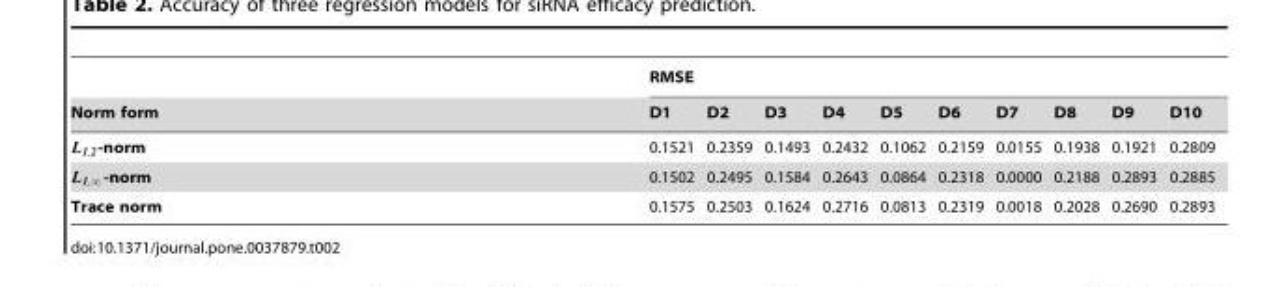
<table><thead><tr><td rowspan="2">Norm form</td><td colspan="10">RMSE</td></tr><tr><td>D1</td><td>D2</td><td>D3</td><td>D4</td><td>D5</td><td>D6</td><td>D7</td><td>D8</td><td>D9</td><td>D10</td></tr></thead><tbody><tr><td>L1,2-norm</td><td>0.1521</td><td>0.2359</td><td>0.1493</td><td>0.2432</td><td>0.1062</td><td>0.2159</td><td>0.0155</td><td>0.1938</td><td>0.1921</td><td>0.2809</td></tr><tr><td>L1,?-norm</td><td>0.1502</td><td>0.2495</td><td>0.1584</td><td>0.2643</td><td>0.0864</td><td>0.2318</td><td>0.0000</td><td>0.2188</td><td>0.2893</td><td>0.2885</td></tr><tr><td>Trace norm</td><td>0.1575</td><td>0.2503</td><td>0.1624</td><td>0.2716</td><td>0.0813</td><td>0.2319</td><td>0.0018</td><td>0.2028</td><td>0.2690</td><td>0.2893</td></tr></tbody></table>